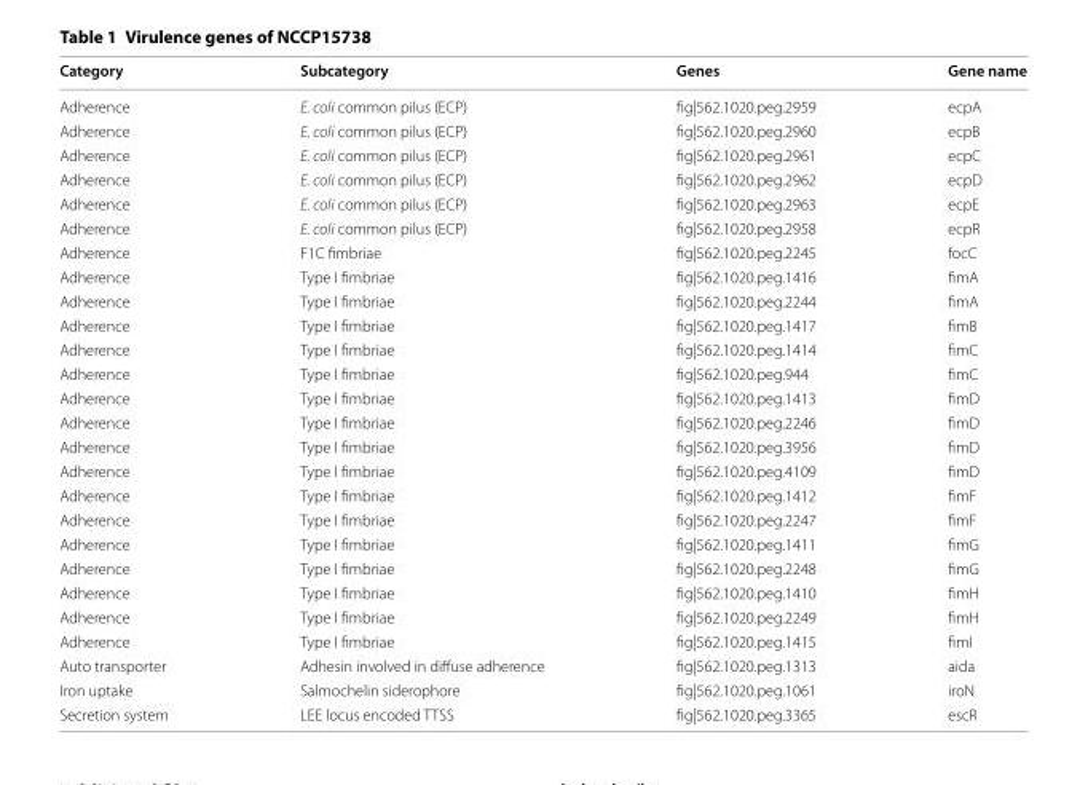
<table><thead><tr><td>Category</td><td>Subcategory</td><td>Genes</td><td>Gene name</td></tr></thead><tbody><tr><td>Adherence</td><td>E. coli common pilus (ECP)</td><td>fig|562.1020.peg.2959</td><td>ecpA</td></tr><tr><td>Adherence</td><td>E. coli common pilus (ECP)</td><td>fig|562.1020.peg.2960</td><td>ecpB</td></tr><tr><td>Adherence</td><td>E. coli common pilus (ECP)</td><td>fig|562.1020.peg.2961</td><td>ecpC</td></tr><tr><td>Adherence</td><td>E. coli common pilus (ECP)</td><td>fig|562.1020.peg.2962</td><td>ecpD</td></tr><tr><td>Adherence</td><td>E. coli common pilus (ECP)</td><td>fig|562.1020.peg.2963</td><td>ecpE</td></tr><tr><td>Adherence</td><td>E. coli common pilus (ECP)</td><td>fig|562.1020.peg.2958</td><td>ecpR</td></tr><tr><td>Adherence</td><td>F1C fimbriae</td><td>fig|562.1020.peg.2245</td><td>focC</td></tr><tr><td>Adherence</td><td>Type I fimbriae</td><td>fig|562.1020.peg.1416</td><td>fimA</td></tr><tr><td>Adherence</td><td>Type I fimbriae</td><td>fig|562.1020.peg.2244</td><td>fimA</td></tr><tr><td>Adherence</td><td>Type I fimbriae</td><td>fig|562.1020.peg.1417</td><td>fimB</td></tr><tr><td>Adherence</td><td>Type I fimbriae</td><td>fig|562.1020.peg.1414</td><td>fimC</td></tr><tr><td>Adherence</td><td>Type I fimbriae</td><td>fig|562.1020.peg.944</td><td>fimC</td></tr><tr><td>Adherence</td><td>Type I fimbriae</td><td>fig|562.1020.peg.1413</td><td>fimD</td></tr><tr><td>Adherence</td><td>Type I fimbriae</td><td>fig|562.1020.peg.2246</td><td>fimD</td></tr><tr><td>Adherence</td><td>Type I fimbriae</td><td>fig|562.1020.peg.3956</td><td>fimD</td></tr><tr><td>Adherence</td><td>Type I fimbriae</td><td>fig|562.1020.peg.4109</td><td>fimD</td></tr><tr><td>Adherence</td><td>Type I fimbriae</td><td>fig|562.1020.peg.1412</td><td>fimF</td></tr><tr><td>Adherence</td><td>Type I fimbriae</td><td>fig|562.1020.peg.2247</td><td>fimF</td></tr><tr><td>Adherence</td><td>Type I fimbriae</td><td>fig|562.1020.peg.1411</td><td>fimG</td></tr><tr><td>Adherence</td><td>Type I fimbriae</td><td>fig|562.1020.peg.2248</td><td>fimG</td></tr><tr><td>Adherence</td><td>Type I fimbriae</td><td>fig|562.1020.peg.1410</td><td>fimH</td></tr><tr><td>Adherence</td><td>Type I fimbriae</td><td>fig|562.1020.peg.2249</td><td>fimH</td></tr><tr><td>Adherence</td><td>Type I fimbriae</td><td>fig|562.1020.peg.1415</td><td>fimI</td></tr><tr><td>Auto transporter</td><td>Adhesin involved in diffuse adherence</td><td>fig|562.1020.peg.1313</td><td>aida</td></tr><tr><td>Iron uptake</td><td>Salmochelin siderophore</td><td>fig|562.1020.peg.1061</td><td>iroN</td></tr><tr><td>Secretion system</td><td>LEE locus encoded TTSS</td><td>fig|562.1020.peg.3365</td><td>escR</td></tr></tbody></table>